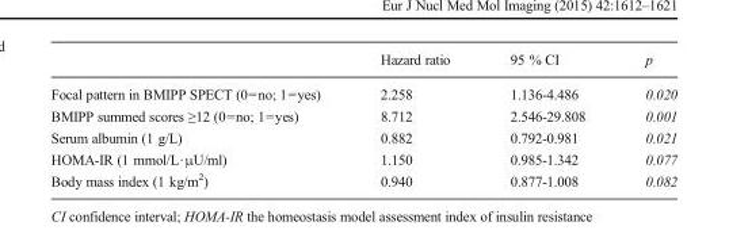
<table><thead><tr><td></td><td>Hazard ratio</td><td>95 % CI</td><td>p</td></tr></thead><tbody><tr><td>Focal pattern in BMIPP SPECT (0=no; 1=yes)</td><td>2.258</td><td>1.136-4.486</td><td>0.020</td></tr><tr><td>BMIPP summed scores ≥12 (0=no; 1=yes)</td><td>8.712</td><td>2.546-29.808</td><td>0.001</td></tr><tr><td>Serum albumin (1 g/L)</td><td>0.882</td><td>0.792-0.981</td><td>0.021</td></tr><tr><td>HOMA-IR (1 mmol/L·μU/ml)</td><td>1.150</td><td>0.985-1.342</td><td>0.077</td></tr><tr><td>Body mass index (1 kg/m<sup>2</sup>)</td><td>0.940</td><td>0.877-1.008</td><td>0.082</td></tr></tbody></table>